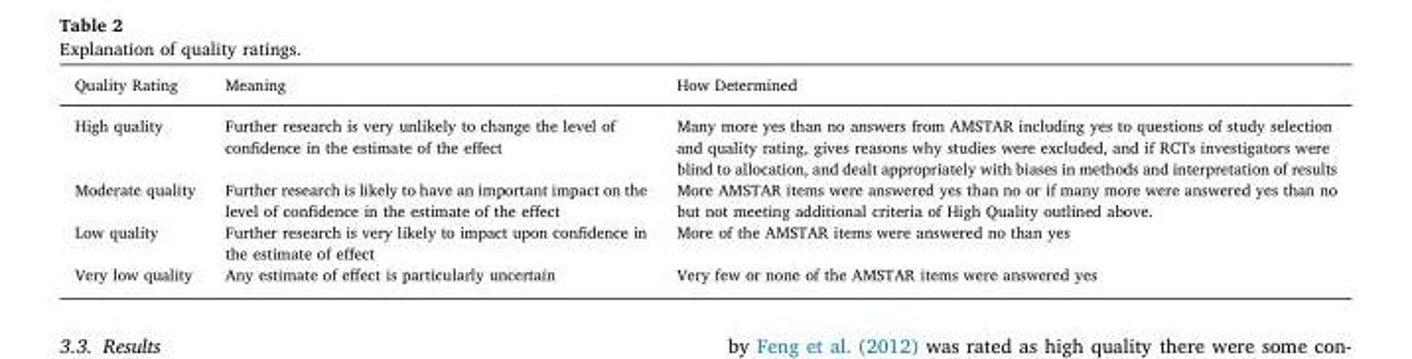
<table><thead><tr><td>Quality Rating</td><td>Meaning</td><td>How Determined</td></tr></thead><tbody><tr><td>High quality</td><td>Further research is very unlikely to change the level of confidence in the estimate of the effect</td><td>Many more yes than no answers from AMSTAR including yes to questions of study selection and quality rating, gives reasons why studies were excluded, and if RCTs investigators were blind to allocation, and dealt appropriately with biases in methods and interpretation of results</td></tr><tr><td>Moderate quality</td><td>Further research is likely to have an important impact on the level of confidence in the estimate of the effect</td><td>More AMSTAR items were answered yes than no or if many more were answered yes than no but not meeting additional criteria of High Quality outlined above.</td></tr><tr><td>Low quality</td><td>Further research is very likely to impact upon confidence in the estimate of effect</td><td>More of the AMSTAR items were answered no than yes</td></tr><tr><td>Very low quality</td><td>Any estimate of effect is particularly uncertain</td><td>Very few or none of the AMSTAR items were answered yes</td></tr></tbody></table>